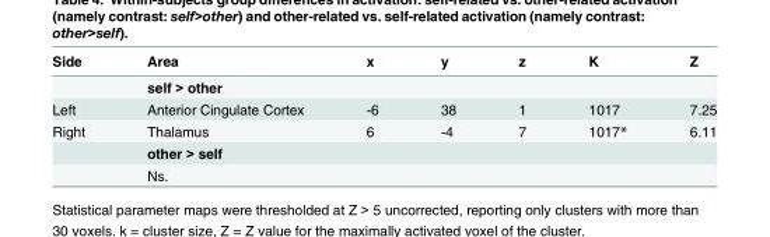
<table><thead><tr><td>Side</td><td>Area</td><td>x</td><td>y</td><td>z</td><td>K</td><td>Z</td></tr></thead><tbody><tr><td></td><td colspan="6">self &gt; other</td></tr><tr><td>Left</td><td>Anterior Cingulate Cortex</td><td>-6</td><td>38</td><td>1</td><td>1017</td><td>7.25</td></tr><tr><td rowspan="3">Right</td><td>Thalamus</td><td>6</td><td>-4</td><td>7</td><td>1017*</td><td>6.11</td></tr><tr><td colspan="6">other &gt; self</td></tr><tr><td>Ns.</td><td></td><td></td><td></td><td></td><td></td></tr></tbody></table>